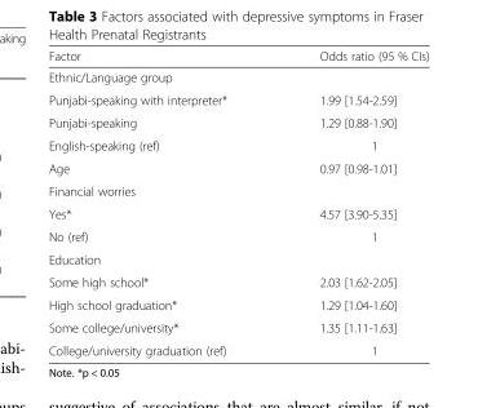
<table><thead><tr><td>Factor</td><td>Odds ratio (95 % CIs)</td></tr></thead><tbody><tr><td colspan="2">Ethnic/Language group</td></tr><tr><td>Punjabi-speaking with interpreter*</td><td>1.99 [1.54-2.59]</td></tr><tr><td>Punjabi-speaking</td><td>1.29 [0.88-1.90]</td></tr><tr><td>English-speaking (ref)</td><td>1</td></tr><tr><td>Age</td><td>0.97 [0.98-1.01]</td></tr><tr><td colspan="2">Financial worries</td></tr><tr><td>Yes*</td><td>4.57 [3.90-5.35]</td></tr><tr><td>No (ref)</td><td>1</td></tr><tr><td colspan="2">Education</td></tr><tr><td>Some high school*</td><td>2.03 [1.62-2.05]</td></tr><tr><td>High school graduation*</td><td>1.29 [1.04-1.60]</td></tr><tr><td>Some college/university*</td><td>1.35 [1.11-1.63]</td></tr><tr><td>College/university graduation (ref)</td><td>1</td></tr></tbody></table>